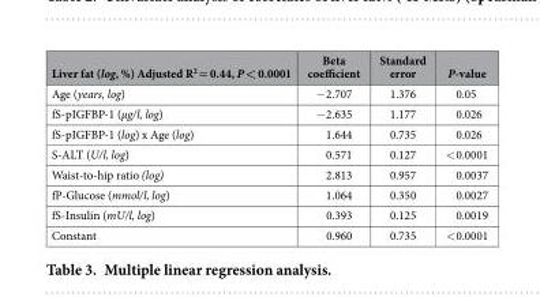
<table><thead><tr><td>Liver fat (log, %) Adjusted R<sup>2</sup> = 0.44, P &lt; 0.0001</td><td>Beta coefficient</td><td>Standard error</td><td>P-value</td></tr></thead><tbody><tr><td>Age (years, log)</td><td>− 2.707</td><td>1.376</td><td>0.05</td></tr><tr><td>fS-pIGFBP-1 (μg/l, log)</td><td>− 2.635</td><td>1.177</td><td>0.026</td></tr><tr><td>fS-pIGFBP-1 (log) x Age (log)</td><td>1.644</td><td>0.735</td><td>0.026</td></tr><tr><td>S-ALT (U/l, log)</td><td>0.571</td><td>0.127</td><td>&lt; 0.0001</td></tr><tr><td>Waist-to-hip ratio (log)</td><td>2.813</td><td>0.957</td><td>0.0037</td></tr><tr><td>fP-Glucose (mmol/l, log)</td><td>1.064</td><td>0.350</td><td>0.0027</td></tr><tr><td>fS-Insulin (mU/l, log)</td><td>0.393</td><td>0.125</td><td>0.0019</td></tr><tr><td>Constant</td><td>0.960</td><td>0.735</td><td>&lt; 0.0001</td></tr></tbody></table>